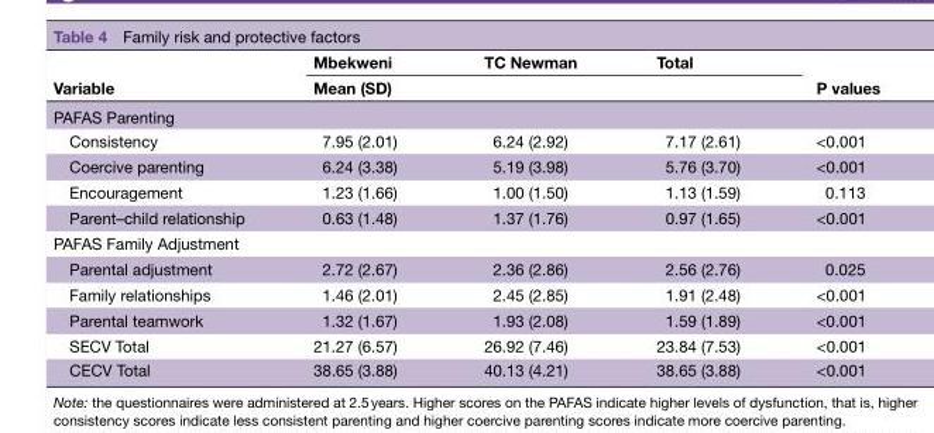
<table><thead><tr><td rowspan="2">Variable</td><td>Mbekweni</td><td>TC Newman</td><td>Total</td><td rowspan="2">P values</td></tr><tr><td colspan="3">Mean (SD)</td></tr></thead><tbody><tr><td colspan="5">PAFAS Parenting</td></tr><tr><td>Consistency</td><td>7.95 (2.01)</td><td>6.24 (2.92)</td><td>7.17 (2.61)</td><td>&lt;0.001</td></tr><tr><td>Coercive parenting</td><td>6.24 (3.38)</td><td>5.19 (3.98)</td><td>5.76 (3.70)</td><td>&lt;0.001</td></tr><tr><td>Encouragement</td><td>1.23 (1.66)</td><td>1.00 (1.50)</td><td>1.13 (1.59)</td><td>0.113</td></tr><tr><td>Parent–child relationship</td><td>0.63 (1.48)</td><td>1.37 (1.76)</td><td>0.97 (1.65)</td><td>&lt;0.001</td></tr><tr><td colspan="5">PAFAS Family Adjustment</td></tr><tr><td>Parental adjustment</td><td>2.72 (2.67)</td><td>2.36 (2.86)</td><td>2.56 (2.76)</td><td>0.025</td></tr><tr><td>Family relationships</td><td>1.46 (2.01)</td><td>2.45 (2.85)</td><td>1.91 (2.48)</td><td>&lt;0.001</td></tr><tr><td>Parental teamwork</td><td>1.32 (1.67)</td><td>1.93 (2.08)</td><td>1.59 (1.89)</td><td>&lt;0.001</td></tr><tr><td>SECV Total</td><td>21.27 (6.57)</td><td>26.92 (7.46)</td><td>23.84 (7.53)</td><td>&lt;0.001</td></tr><tr><td>CECV Total</td><td>38.65 (3.88)</td><td>40.13 (4.21)</td><td>38.65 (3.88)</td><td>&lt;0.001</td></tr></tbody></table>